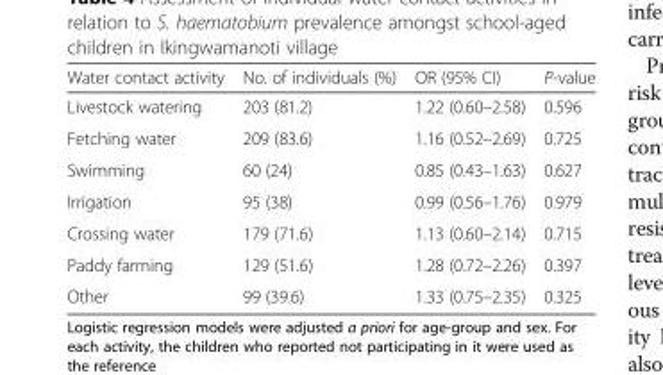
<table><thead><tr><td>Water contact activity</td><td>No. of individuals (%)</td><td>OR (95% CI)</td><td>P-value</td></tr></thead><tbody><tr><td>Livestock watering</td><td>203 (81.2)</td><td>1.22 (0.60–2.58)</td><td>0.596</td></tr><tr><td>Fetching water</td><td>209 (83.6)</td><td>1.16 (0.52–2.69)</td><td>0.725</td></tr><tr><td>Swimming</td><td>60 (24)</td><td>0.85 (0.43–1.63)</td><td>0.627</td></tr><tr><td>Irrigation</td><td>95 (38)</td><td>0.99 (0.56–1.76)</td><td>0.979</td></tr><tr><td>Crossing water</td><td>179 (71.6)</td><td>1.13 (0.60–2.14)</td><td>0.715</td></tr><tr><td>Paddy farming</td><td>129 (51.6)</td><td>1.28 (0.72–2.26)</td><td>0.397</td></tr><tr><td>Other</td><td>99 (39.6)</td><td>1.33 (0.75–2.35)</td><td>0.325</td></tr></tbody></table>